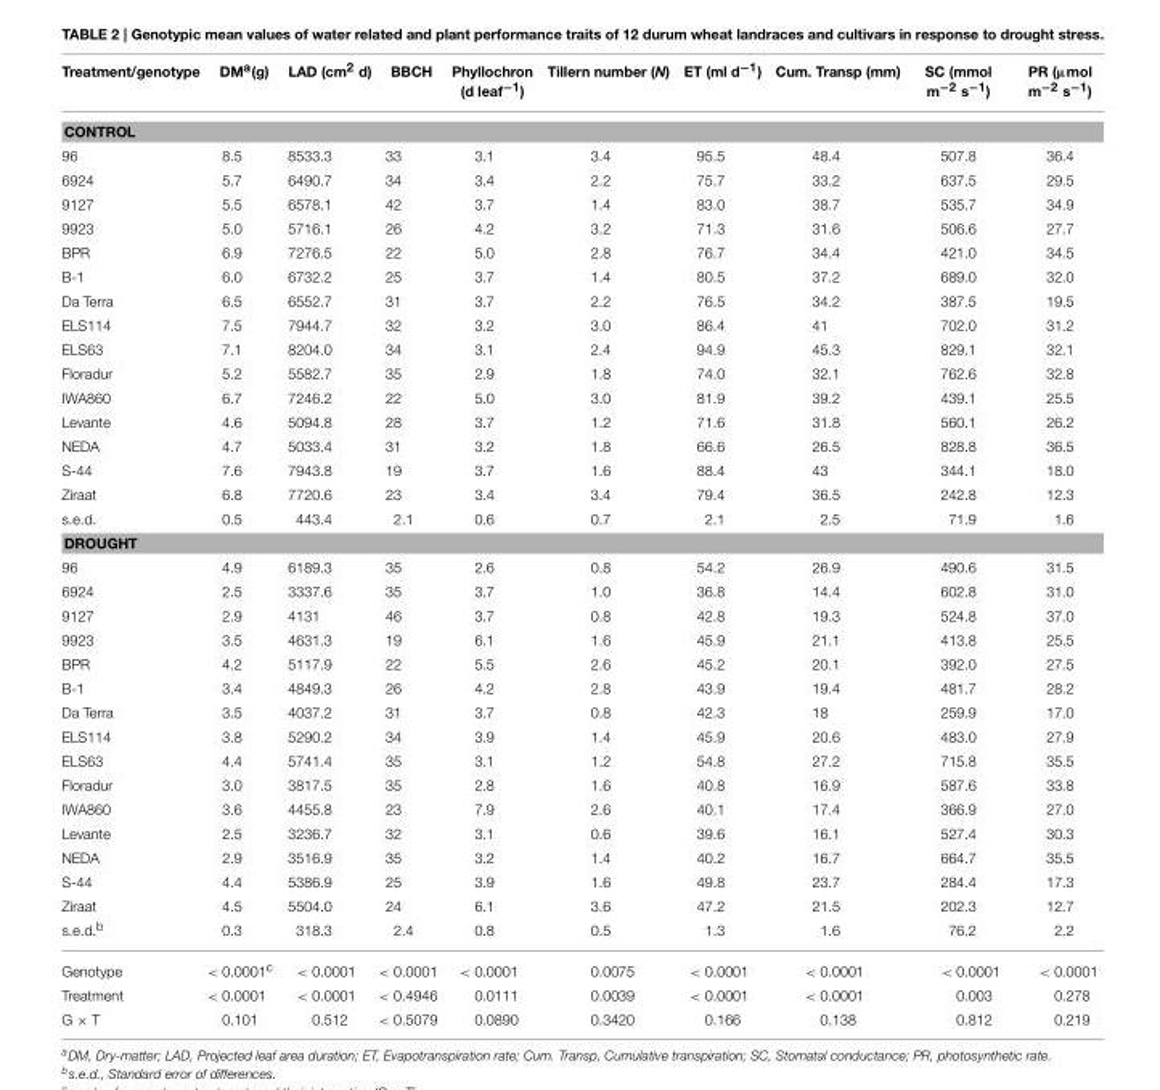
<table><thead><tr><td>Treatment/genotype</td><td>DM<sup>a</sup>(g)</td><td>LAD (cm<sup>2</sup> d)</td><td>BBCH</td><td>Phyllochron (d leaf<sup>−1</sup>)</td><td>Tillern number (N)</td><td>ET (ml d<sup>−1</sup>)</td><td>Cum. Transp (mm)</td><td>SC (mmol m<sup>−2</sup> s<sup>−1</sup>)</td><td>PR (µmol m<sup>−2</sup> s<sup>−1</sup>)</td></tr></thead><tbody><tr><td colspan="10">CONTROL</td></tr><tr><td>96</td><td>8.5</td><td>8533.3</td><td>33</td><td>3.1</td><td>3.4</td><td>95.5</td><td>48.4</td><td>507.8</td><td>36.4</td></tr><tr><td>6924</td><td>5.7</td><td>6490.7</td><td>34</td><td>3.4</td><td>2.2</td><td>75.7</td><td>33.2</td><td>637.5</td><td>29.5</td></tr><tr><td>9127</td><td>5.5</td><td>6578.1</td><td>42</td><td>3.7</td><td>1.4</td><td>83.0</td><td>38.7</td><td>535.7</td><td>34.9</td></tr><tr><td>9923</td><td>5.0</td><td>5716.1</td><td>26</td><td>4.2</td><td>3.2</td><td>71.3</td><td>31.6</td><td>506.6</td><td>27.7</td></tr><tr><td>BPR</td><td>6.9</td><td>7276.5</td><td>22</td><td>5.0</td><td>2.8</td><td>76.7</td><td>34.4</td><td>421.0</td><td>34.5</td></tr><tr><td>B-1</td><td>6.0</td><td>6732.2</td><td>25</td><td>3.7</td><td>1.4</td><td>80.5</td><td>37.2</td><td>689.0</td><td>32.0</td></tr><tr><td>Da Terra</td><td>6.5</td><td>6552.7</td><td>31</td><td>3.7</td><td>2.2</td><td>76.5</td><td>34.2</td><td>387.5</td><td>19.5</td></tr><tr><td>ELS114</td><td>7.5</td><td>7944.7</td><td>32</td><td>3.2</td><td>3.0</td><td>86.4</td><td>41</td><td>702.0</td><td>31.2</td></tr><tr><td>ELS63</td><td>7.1</td><td>8204.0</td><td>34</td><td>3.1</td><td>2.4</td><td>94.9</td><td>45.3</td><td>829.1</td><td>32.1</td></tr><tr><td>Floradur</td><td>5.2</td><td>5582.7</td><td>35</td><td>2.9</td><td>1.8</td><td>74.0</td><td>32.1</td><td>762.6</td><td>32.8</td></tr><tr><td>IWA860</td><td>6.7</td><td>7246.2</td><td>22</td><td>5.0</td><td>3.0</td><td>81.9</td><td>39.2</td><td>439.1</td><td>25.5</td></tr><tr><td>Levante</td><td>4.6</td><td>5094.8</td><td>28</td><td>3.7</td><td>1.2</td><td>71.6</td><td>31.8</td><td>560.1</td><td>26.2</td></tr><tr><td>NEDA</td><td>4.7</td><td>5033.4</td><td>31</td><td>3.2</td><td>1.8</td><td>66.6</td><td>26.5</td><td>828.8</td><td>36.5</td></tr><tr><td>S-44</td><td>7.6</td><td>7943.8</td><td>19</td><td>3.7</td><td>1.6</td><td>88.4</td><td>43</td><td>344.1</td><td>18.0</td></tr><tr><td>Ziraat</td><td>6.8</td><td>7720.6</td><td>23</td><td>3.4</td><td>3.4</td><td>79.4</td><td>36.5</td><td>242.8</td><td>12.3</td></tr><tr><td>s.e.d.</td><td>0.5</td><td>443.4</td><td>2.1</td><td>0.6</td><td>0.7</td><td>2.1</td><td>2.5</td><td>71.9</td><td>1.6</td></tr><tr><td colspan="10">DROUGHT</td></tr><tr><td>96</td><td>4.9</td><td>6189.3</td><td>35</td><td>2.6</td><td>0.8</td><td>54.2</td><td>26.9</td><td>490.6</td><td>31.5</td></tr><tr><td>6924</td><td>2.5</td><td>3337.6</td><td>35</td><td>3.7</td><td>1.0</td><td>36.8</td><td>14.4</td><td>602.8</td><td>31.0</td></tr><tr><td>9127</td><td>2.9</td><td>4131</td><td>46</td><td>3.7</td><td>0.8</td><td>42.8</td><td>19.3</td><td>524.8</td><td>37.0</td></tr><tr><td>9923</td><td>3.5</td><td>4631.3</td><td>19</td><td>6.1</td><td>1.6</td><td>45.9</td><td>21.1</td><td>413.8</td><td>25.5</td></tr><tr><td>BPR</td><td>4.2</td><td>5117.9</td><td>22</td><td>5.5</td><td>2.6</td><td>45.2</td><td>20.1</td><td>392.0</td><td>27.5</td></tr><tr><td>B-1</td><td>3.4</td><td>4849.3</td><td>26</td><td>4.2</td><td>2.8</td><td>43.9</td><td>19.4</td><td>481.7</td><td>28.2</td></tr><tr><td>Da Terra</td><td>3.5</td><td>4037.2</td><td>31</td><td>3.7</td><td>0.8</td><td>42.3</td><td>18</td><td>259.9</td><td>17.0</td></tr><tr><td>ELS114</td><td>3.8</td><td>5290.2</td><td>34</td><td>3.9</td><td>1.4</td><td>45.9</td><td>20.6</td><td>483.0</td><td>27.9</td></tr><tr><td>ELS63</td><td>4.4</td><td>5741.4</td><td>35</td><td>3.1</td><td>1.2</td><td>54.8</td><td>27.2</td><td>715.8</td><td>35.5</td></tr><tr><td>Floradur</td><td>3.0</td><td>3817.5</td><td>35</td><td>2.8</td><td>1.6</td><td>40.8</td><td>16.9</td><td>587.6</td><td>33.8</td></tr><tr><td>IWA860</td><td>3.6</td><td>4455.8</td><td>23</td><td>7.9</td><td>2.6</td><td>40.1</td><td>17.4</td><td>366.9</td><td>27.0</td></tr><tr><td>Levante</td><td>2.5</td><td>3236.7</td><td>32</td><td>3.1</td><td>0.6</td><td>39.6</td><td>16.1</td><td>527.4</td><td>30.3</td></tr><tr><td>NEDA</td><td>2.9</td><td>3516.9</td><td>35</td><td>3.2</td><td>1.4</td><td>40.2</td><td>16.7</td><td>664.7</td><td>35.5</td></tr><tr><td>S-44</td><td>4.4</td><td>5386.9</td><td>25</td><td>3.9</td><td>1.6</td><td>49.8</td><td>23.7</td><td>284.4</td><td>17.3</td></tr><tr><td>Ziraat</td><td>4.5</td><td>5504.0</td><td>24</td><td>6.1</td><td>3.6</td><td>47.2</td><td>21.5</td><td>202.3</td><td>12.7</td></tr><tr><td>s.e.d.<sup>b</sup></td><td>0.3</td><td>318.3</td><td>2.4</td><td>0.8</td><td>0.5</td><td>1.3</td><td>1.6</td><td>76.2</td><td>2.2</td></tr><tr><td>Genotype</td><td>&lt; 0.0001<sup>c</sup></td><td>&lt; 0.0001</td><td>&lt; 0.0001</td><td>&lt; 0.0001</td><td>0.0075</td><td>&lt; 0.0001</td><td>&lt; 0.0001</td><td>&lt; 0.0001</td><td>&lt; 0.0001</td></tr><tr><td>Treatment</td><td>&lt; 0.0001</td><td>&lt; 0.0001</td><td>&lt; 0.4946</td><td>0.0111</td><td>0.0039</td><td>&lt; 0.0001</td><td>&lt; 0.0001</td><td>0.003</td><td>0.278</td></tr><tr><td>G × T</td><td>0.101</td><td>0.512</td><td>&lt; 0.5079</td><td>0.0890</td><td>0.3420</td><td>0.166</td><td>0.138</td><td>0.812</td><td>0.219</td></tr></tbody></table>